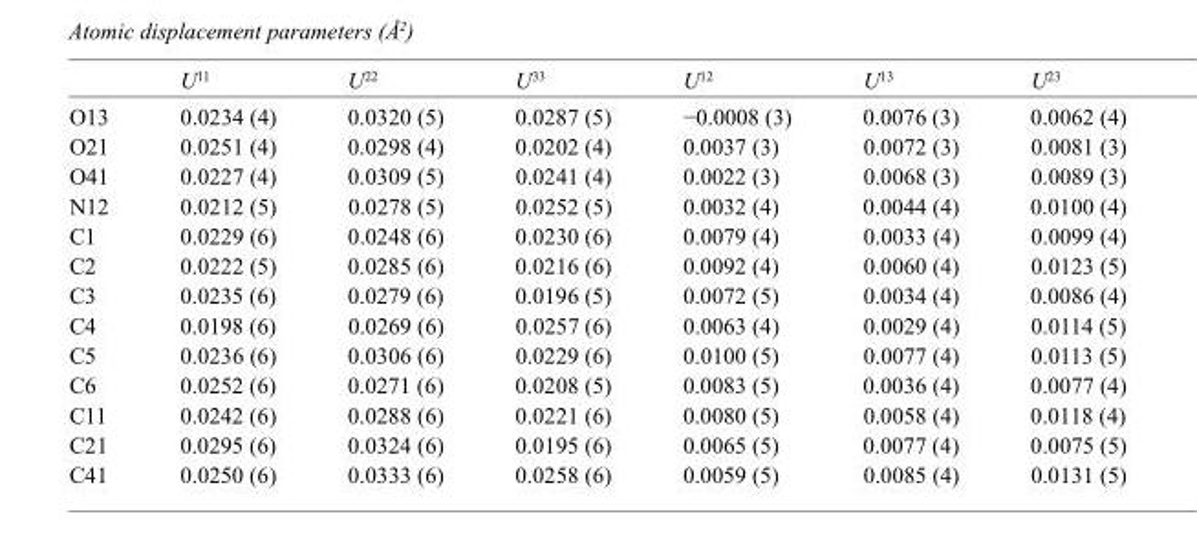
<table><thead><tr><td></td><td>U<sup>11</sup></td><td>U<sup>22</sup></td><td>U<sup>33</sup></td><td>U<sup>12</sup></td><td>U<sup>13</sup></td><td>U<sup>23</sup></td></tr></thead><tbody><tr><td>O13</td><td>0.0234 (4)</td><td>0.0320 (5)</td><td>0.0287 (5)</td><td>−0.0008 (3)</td><td>0.0076 (3)</td><td>0.0062 (4)</td></tr><tr><td>O21</td><td>0.0251 (4)</td><td>0.0298 (4)</td><td>0.0202 (4)</td><td>0.0037 (3)</td><td>0.0072 (3)</td><td>0.0081 (3)</td></tr><tr><td>O41</td><td>0.0227 (4)</td><td>0.0309 (5)</td><td>0.0241 (4)</td><td>0.0022 (3)</td><td>0.0068 (3)</td><td>0.0089 (3)</td></tr><tr><td>N12</td><td>0.0212 (5)</td><td>0.0278 (5)</td><td>0.0252 (5)</td><td>0.0032 (4)</td><td>0.0044 (4)</td><td>0.0100 (4)</td></tr><tr><td>C1</td><td>0.0229 (6)</td><td>0.0248 (6)</td><td>0.0230 (6)</td><td>0.0079 (4)</td><td>0.0033 (4)</td><td>0.0099 (4)</td></tr><tr><td>C2</td><td>0.0222 (5)</td><td>0.0285 (6)</td><td>0.0216 (6)</td><td>0.0092 (4)</td><td>0.0060 (4)</td><td>0.0123 (5)</td></tr><tr><td>C3</td><td>0.0235 (6)</td><td>0.0279 (6)</td><td>0.0196 (5)</td><td>0.0072 (5)</td><td>0.0034 (4)</td><td>0.0086 (4)</td></tr><tr><td>C4</td><td>0.0198 (6)</td><td>0.0269 (6)</td><td>0.0257 (6)</td><td>0.0063 (4)</td><td>0.0029 (4)</td><td>0.0114 (5)</td></tr><tr><td>C5</td><td>0.0236 (6)</td><td>0.0306 (6)</td><td>0.0229 (6)</td><td>0.0100 (5)</td><td>0.0077 (4)</td><td>0.0113 (5)</td></tr><tr><td>C6</td><td>0.0252 (6)</td><td>0.0271 (6)</td><td>0.0208 (5)</td><td>0.0083 (5)</td><td>0.0036 (4)</td><td>0.0077 (4)</td></tr><tr><td>C11</td><td>0.0242 (6)</td><td>0.0288 (6)</td><td>0.0221 (6)</td><td>0.0080 (5)</td><td>0.0058 (4)</td><td>0.0118 (4)</td></tr><tr><td>C21</td><td>0.0295 (6)</td><td>0.0324 (6)</td><td>0.0195 (6)</td><td>0.0065 (5)</td><td>0.0077 (4)</td><td>0.0075 (5)</td></tr><tr><td>C41</td><td>0.0250 (6)</td><td>0.0333 (6)</td><td>0.0258 (6)</td><td>0.0059 (5)</td><td>0.0085 (4)</td><td>0.0131 (5)</td></tr></tbody></table>